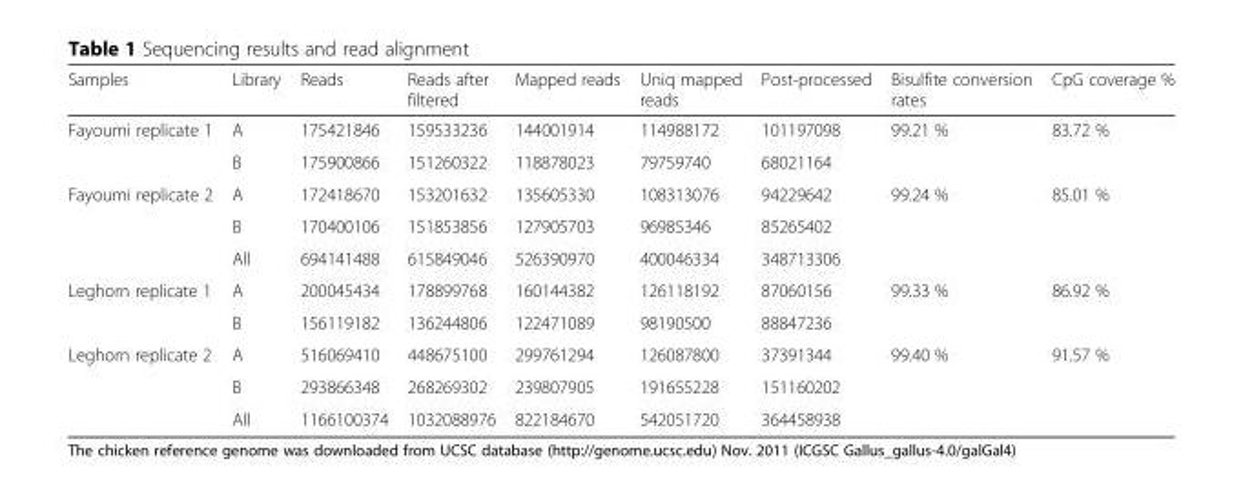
<table><thead><tr><td>Samples</td><td>Library</td><td>Reads</td><td>Reads after filtered</td><td>Mapped reads</td><td>Uniq mapped reads</td><td>Post-processed</td><td>Bisulfite conversion rates</td><td>CpG coverage %</td></tr></thead><tbody><tr><td rowspan="2">Fayoumi replicate 1</td><td>A</td><td>175421846</td><td>159533236</td><td>144001914</td><td>114988172</td><td>101197098</td><td>99.21 %</td><td>83.72 %</td></tr><tr><td>B</td><td>175900866</td><td>151260322</td><td>118878023</td><td>79759740</td><td>68021164</td><td></td><td></td></tr><tr><td rowspan="3">Fayoumi replicate 2</td><td>A</td><td>172418670</td><td>153201632</td><td>135605330</td><td>108313076</td><td>94229642</td><td>99.24 %</td><td>85.01 %</td></tr><tr><td>B</td><td>170400106</td><td>151853856</td><td>127905703</td><td>96985346</td><td>85265402</td><td></td><td></td></tr><tr><td>All</td><td>694141488</td><td>615849046</td><td>526390970</td><td>400046334</td><td>348713306</td><td></td><td></td></tr><tr><td rowspan="2">Leghorn replicate 1</td><td>A</td><td>200045434</td><td>178899768</td><td>160144382</td><td>126118192</td><td>87060156</td><td>99.33 %</td><td>86.92 %</td></tr><tr><td>B</td><td>156119182</td><td>136244806</td><td>122471089</td><td>98190500</td><td>88847236</td><td></td><td></td></tr><tr><td rowspan="3">Leghorn replicate 2</td><td>A</td><td>516069410</td><td>448675100</td><td>299761294</td><td>126087800</td><td>37391344</td><td>99.40 %</td><td>91.57 %</td></tr><tr><td>B</td><td>293866348</td><td>268269302</td><td>239807905</td><td>191655228</td><td>151160202</td><td></td><td></td></tr><tr><td>All</td><td>1166100374</td><td>1032088976</td><td>822184670</td><td>542051720</td><td>364458938</td><td></td><td></td></tr></tbody></table>